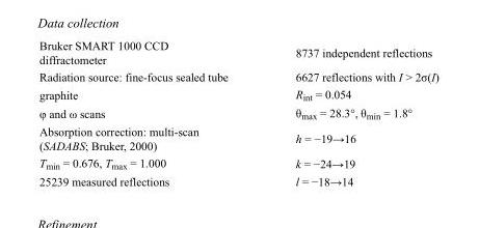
<table><tbody><tr><td>Bruker SMART 1000 CCD diffractometer</td><td>8737 independent reflections</td></tr><tr><td>Radiation source: fine-focus sealed tube</td><td>6627 reflections with I &gt; 2σ(I)</td></tr><tr><td>graphite</td><td>R<sub>int</sub> = 0.054</td></tr><tr><td>φ and ω scans</td><td>θ<sub>max</sub> = 28.3°, θ<sub>min</sub> = 1.8°</td></tr><tr><td>Absorption correction: multi-scan (SADABS; Bruker, 2000)</td><td>h = −19→16</td></tr><tr><td>T<sub>min</sub> = 0.676, T<sub>max</sub> = 1.000</td><td>k = −24→19</td></tr><tr><td>25239 measured reflections</td><td>l = −18→14</td></tr></tbody></table>